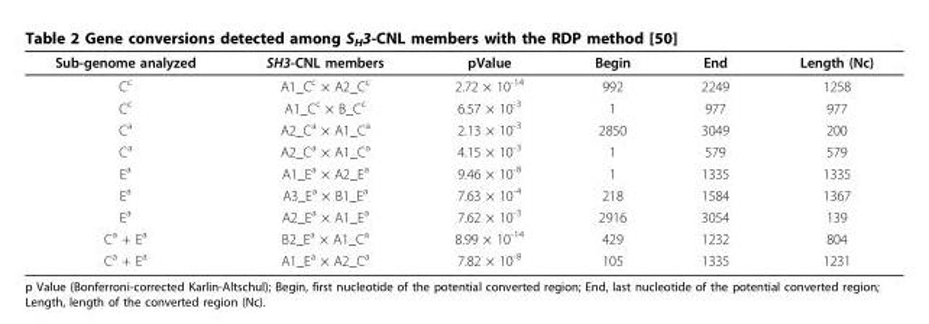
<table><thead><tr><td>Sub-genome analyzed</td><td>SH3-CNL members</td><td>pValue</td><td>Begin</td><td>End</td><td>Length (Nc)</td></tr></thead><tbody><tr><td>C<sup>c</sup></td><td>A1_C<sup>c</sup> × A2_C<sup>c</sup></td><td>2.72 × 10<sup>-14</sup></td><td>992</td><td>2249</td><td>1258</td></tr><tr><td>C<sup>c</sup></td><td>A1_C<sup>c</sup> × B_C<sup>c</sup></td><td>6.57 × 10<sup>-3</sup></td><td>1</td><td>977</td><td>977</td></tr><tr><td>C<sup>a</sup></td><td>A2_C<sup>a</sup> × A1_C<sup>a</sup></td><td>2.13 × 10<sup>-3</sup></td><td>2850</td><td>3049</td><td>200</td></tr><tr><td>C<sup>a</sup></td><td>A2_C<sup>a</sup> × A1_C<sup>a</sup></td><td>4.15 × 10<sup>-3</sup></td><td>1</td><td>579</td><td>579</td></tr><tr><td>E<sup>a</sup></td><td>A1_E<sup>a</sup> × A2_E<sup>a</sup></td><td>9.46 × 10<sup>-8</sup></td><td>1</td><td>1335</td><td>1335</td></tr><tr><td>E<sup>a</sup></td><td>A3_E<sup>a</sup> × B1_E<sup>a</sup></td><td>7.63 × 10<sup>-4</sup></td><td>218</td><td>1584</td><td>1367</td></tr><tr><td>E<sup>a</sup></td><td>A2_E<sup>a</sup> × A1_E<sup>a</sup></td><td>7.62 × 10<sup>-3</sup></td><td>2916</td><td>3054</td><td>139</td></tr><tr><td>C<sup>a</sup> + E<sup>a</sup></td><td>B2_E<sup>a</sup> × A1_C<sup>a</sup></td><td>8.99 × 10<sup>-14</sup></td><td>429</td><td>1232</td><td>804</td></tr><tr><td>C<sup>a</sup> + E<sup>a</sup></td><td>A1_E<sup>a</sup> × A2_C<sup>a</sup></td><td>7.82 × 10<sup>-8</sup></td><td>105</td><td>1335</td><td>1231</td></tr></tbody></table>